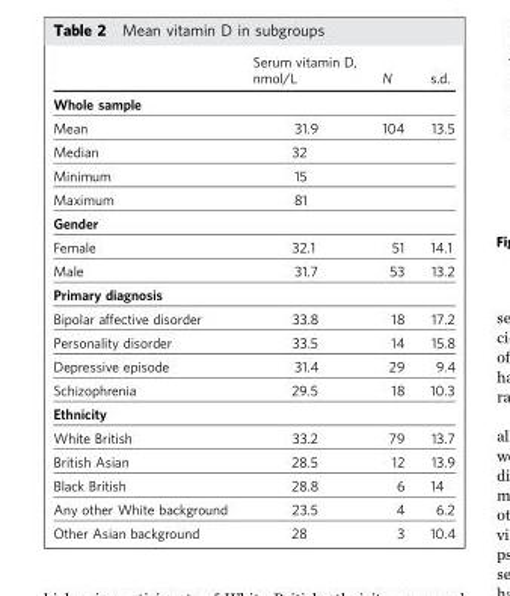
<table><thead><tr><td></td><td>Serum vitamin D, nmol/L</td><td>N</td><td>s.d.</td></tr></thead><tbody><tr><td colspan="4">Whole sample</td></tr><tr><td>Mean</td><td>31.9</td><td>104</td><td>13.5</td></tr><tr><td>Median</td><td>32</td><td></td><td></td></tr><tr><td>Minimum</td><td>15</td><td></td><td></td></tr><tr><td>Maximum</td><td>81</td><td></td><td></td></tr><tr><td colspan="4">Gender</td></tr><tr><td>Female</td><td>32.1</td><td>51</td><td>14.1</td></tr><tr><td>Male</td><td>31.7</td><td>53</td><td>13.2</td></tr><tr><td colspan="4">Primary diagnosis</td></tr><tr><td>Bipolar affective disorder</td><td>33.8</td><td>18</td><td>17.2</td></tr><tr><td>Personality disorder</td><td>33.5</td><td>14</td><td>15.8</td></tr><tr><td>Depressive episode</td><td>31.4</td><td>29</td><td>9.4</td></tr><tr><td>Schizophrenia</td><td>29.5</td><td>18</td><td>10.3</td></tr><tr><td colspan="4">Ethnicity</td></tr><tr><td>White British</td><td>33.2</td><td>79</td><td>13.7</td></tr><tr><td>British Asian</td><td>28.5</td><td>12</td><td>13.9</td></tr><tr><td>Black British</td><td>28.8</td><td>6</td><td>14</td></tr><tr><td>Any other White background</td><td>23.5</td><td>4</td><td>6.2</td></tr><tr><td>Other Asian background</td><td>28</td><td>3</td><td>10.4</td></tr></tbody></table>